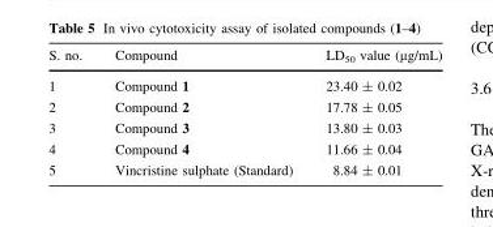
<table><thead><tr><td>S. no.</td><td>Compound</td><td>LD<sub>50</sub> value (μg/mL)</td></tr></thead><tbody><tr><td>1</td><td>Compound 1</td><td>23.40 ± 0.02</td></tr><tr><td>2</td><td>Compound 2</td><td>17.78 ± 0.05</td></tr><tr><td>3</td><td>Compound 3</td><td>13.80 ± 0.03</td></tr><tr><td>4</td><td>Compound 4</td><td>11.66 ± 0.04</td></tr><tr><td>5</td><td>Vincristine sulphate (Standard)</td><td>8.84 ± 0.01</td></tr></tbody></table>